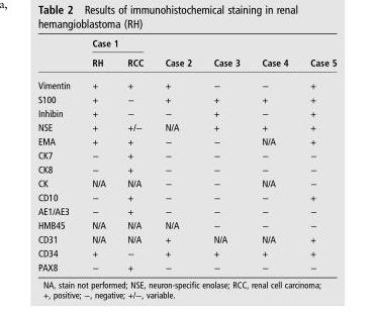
<table><thead><tr><td rowspan="2"></td><td colspan="2">Case 1</td><td rowspan="2">Case 2</td><td rowspan="2">Case 3</td><td rowspan="2">Case 4</td><td rowspan="2">Case 5</td></tr><tr><td>RH</td><td>RCC</td></tr></thead><tbody><tr><td>Vimentin</td><td>+</td><td>+</td><td>+</td><td>−</td><td>−</td><td>+</td></tr><tr><td>S100</td><td>+</td><td>−</td><td>+</td><td>+</td><td>+</td><td>+</td></tr><tr><td>Inhibin</td><td>+</td><td>−</td><td>−</td><td>+</td><td>−</td><td>+</td></tr><tr><td>NSE</td><td>+</td><td>+/−</td><td>N/A</td><td>+</td><td>+</td><td>+</td></tr><tr><td>EMA</td><td>+</td><td>+</td><td>−</td><td>−</td><td>N/A</td><td>+</td></tr><tr><td>CK7</td><td>−</td><td>+</td><td>−</td><td>−</td><td>−</td><td>−</td></tr><tr><td>CK8</td><td>−</td><td>+</td><td>−</td><td>−</td><td>−</td><td>−</td></tr><tr><td>CK</td><td>N/A</td><td>N/A</td><td>−</td><td>−</td><td>N/A</td><td>−</td></tr><tr><td>CD10</td><td>−</td><td>+</td><td>−</td><td>−</td><td>−</td><td>+</td></tr><tr><td>AE1/AE3</td><td>−</td><td>+</td><td>−</td><td>−</td><td>−</td><td>−</td></tr><tr><td>HMB45</td><td>N/A</td><td>N/A</td><td>N/A</td><td>−</td><td>−</td><td>−</td></tr><tr><td>CD31</td><td>N/A</td><td>N/A</td><td>+</td><td>N/A</td><td>N/A</td><td>+</td></tr><tr><td>CD34</td><td>+</td><td>−</td><td>+</td><td>+</td><td>+</td><td>+</td></tr><tr><td>PAX8</td><td>−</td><td>+</td><td>−</td><td>−</td><td>−</td><td>−</td></tr></tbody></table>